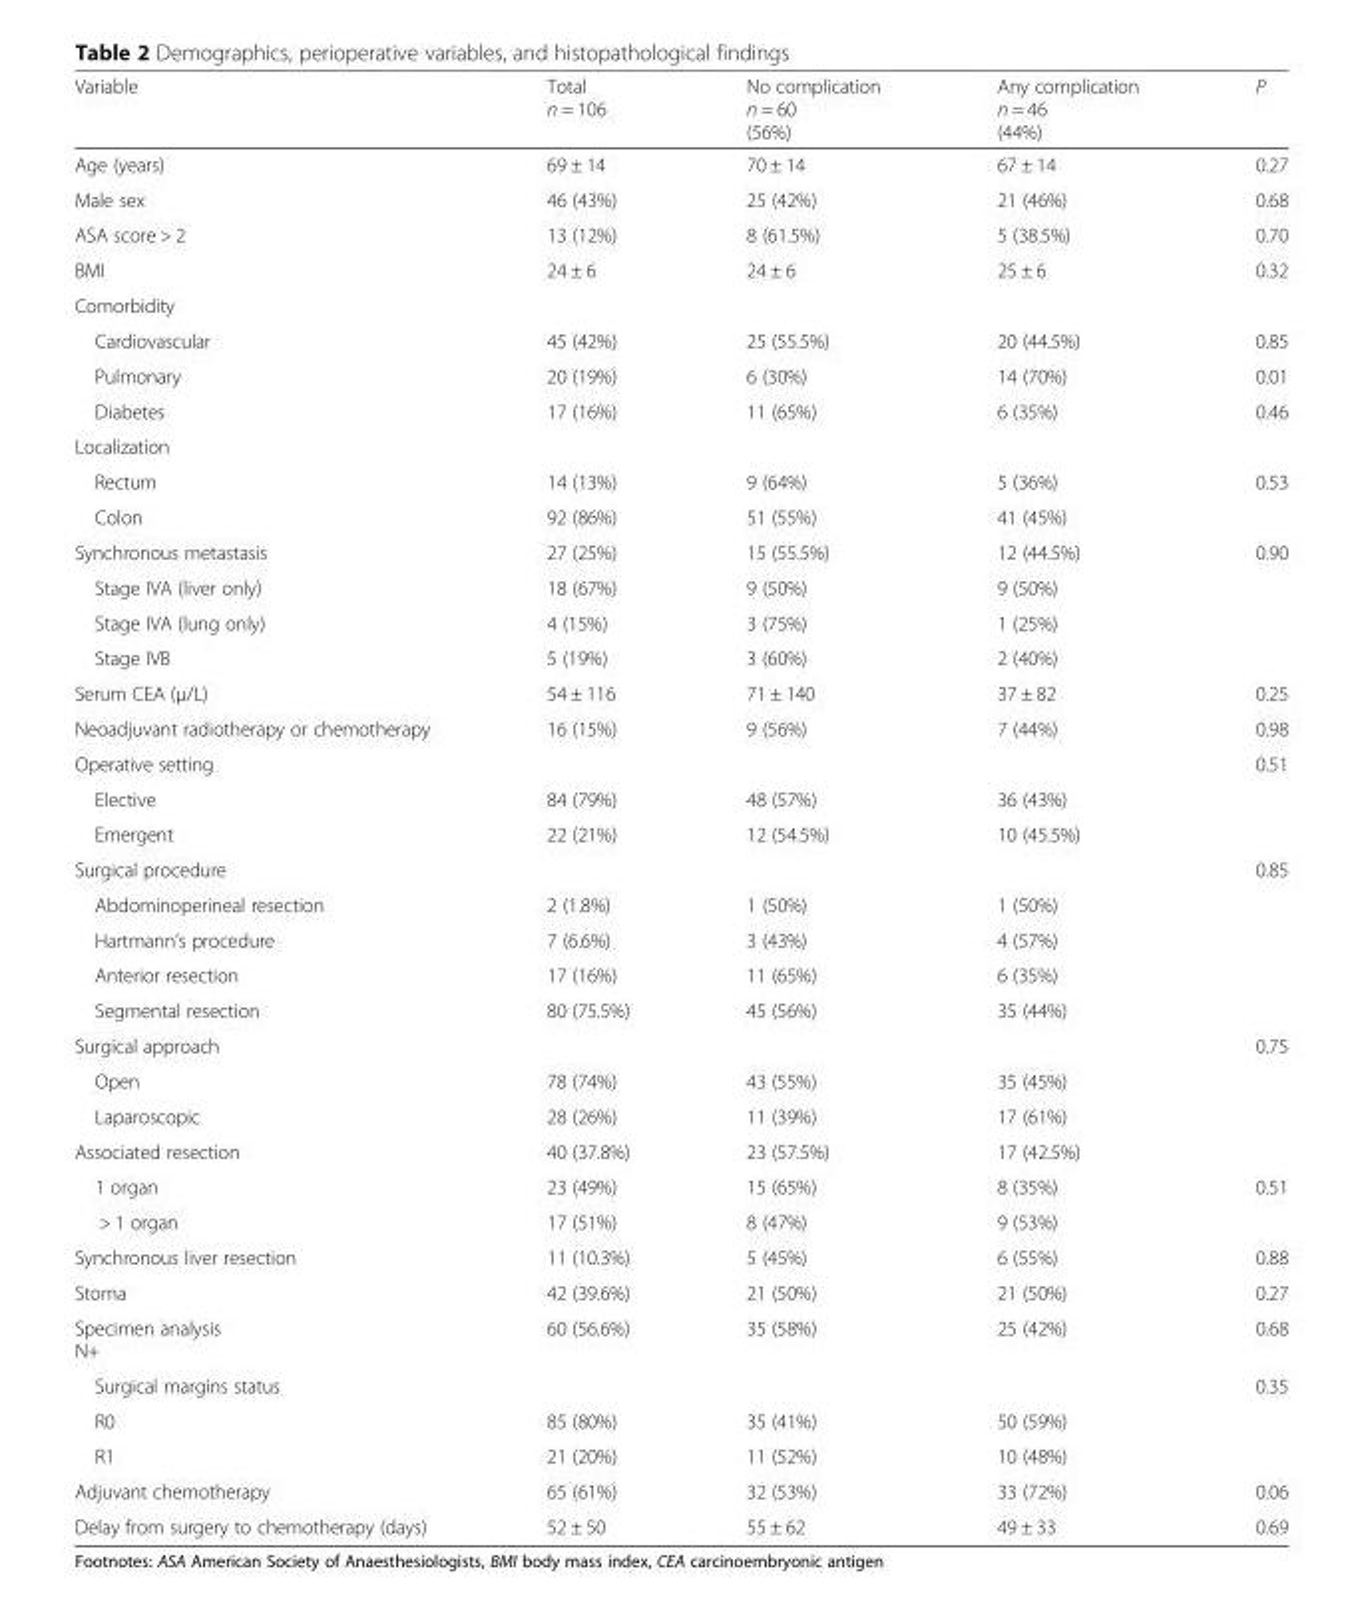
<table><thead><tr><td>Variable</td><td>Total n = 106</td><td>No complication n = 60 (56%)</td><td>Any complication n = 46 (44%)</td><td>P</td></tr></thead><tbody><tr><td>Age (years)</td><td>69 ± 14</td><td>70 ± 14</td><td>67 ± 14</td><td>0.27</td></tr><tr><td>Male sex</td><td>46 (43%)</td><td>25 (42%)</td><td>21 (46%)</td><td>0.68</td></tr><tr><td>ASA score &gt; 2</td><td>13 (12%)</td><td>8 (61.5%)</td><td>5 (38.5%)</td><td>0.70</td></tr><tr><td>BMI</td><td>24 ± 6</td><td>24 ± 6</td><td>25 ± 6</td><td>0.32</td></tr><tr><td colspan="5">Comorbidity</td></tr><tr><td>Cardiovascular</td><td>45 (42%)</td><td>25 (55.5%)</td><td>20 (44.5%)</td><td>0.85</td></tr><tr><td>Pulmonary</td><td>20 (19%)</td><td>6 (30%)</td><td>14 (70%)</td><td>0.01</td></tr><tr><td>Diabetes</td><td>17 (16%)</td><td>11 (65%)</td><td>6 (35%)</td><td>0.46</td></tr><tr><td colspan="5">Localization</td></tr><tr><td>Rectum</td><td>14 (13%)</td><td>9 (64%)</td><td>5 (36%)</td><td>0.53</td></tr><tr><td>Colon</td><td>92 (86%)</td><td>51 (55%)</td><td>41 (45%)</td><td></td></tr><tr><td>Synchronous metastasis</td><td>27 (25%)</td><td>15 (55.5%)</td><td>12 (44.5%)</td><td>0.90</td></tr><tr><td>Stage IVA (liver only)</td><td>18 (67%)</td><td>9 (50%)</td><td>9 (50%)</td><td></td></tr><tr><td>Stage IVA (lung only)</td><td>4 (15%)</td><td>3 (75%)</td><td>1 (25%)</td><td></td></tr><tr><td>Stage IVB</td><td>5 (19%)</td><td>3 (60%)</td><td>2 (40%)</td><td></td></tr><tr><td>Serum CEA (μ/L)</td><td>54 ± 116</td><td>71 ± 140</td><td>37 ± 82</td><td>0.25</td></tr><tr><td>Neoadjuvant radiotherapy or chemotherapy</td><td>16 (15%)</td><td>9 (56%)</td><td>7 (44%)</td><td>0.98</td></tr><tr><td>Operative setting</td><td></td><td></td><td></td><td>0.51</td></tr><tr><td>Elective</td><td>84 (79%)</td><td>48 (57%)</td><td>36 (43%)</td><td></td></tr><tr><td>Emergent</td><td>22 (21%)</td><td>12 (54.5%)</td><td>10 (45.5%)</td><td></td></tr><tr><td>Surgical procedure</td><td></td><td></td><td></td><td>0.85</td></tr><tr><td>Abdominoperineal resection</td><td>2 (1.8%)</td><td>1 (50%)</td><td>1 (50%)</td><td></td></tr><tr><td>Hartmann’s procedure</td><td>7 (6.6%)</td><td>3 (43%)</td><td>4 (57%)</td><td></td></tr><tr><td>Anterior resection</td><td>17 (16%)</td><td>11 (65%)</td><td>6 (35%)</td><td></td></tr><tr><td>Segmental resection</td><td>80 (75.5%)</td><td>45 (56%)</td><td>35 (44%)</td><td></td></tr><tr><td>Surgical approach</td><td></td><td></td><td></td><td>0.75</td></tr><tr><td>Open</td><td>78 (74%)</td><td>43 (55%)</td><td>35 (45%)</td><td></td></tr><tr><td>Laparoscopic</td><td>28 (26%)</td><td>11 (39%)</td><td>17 (61%)</td><td></td></tr><tr><td>Associated resection</td><td>40 (37.8%)</td><td>23 (57.5%)</td><td>17 (42.5%)</td><td></td></tr><tr><td>1 organ</td><td>23 (49%)</td><td>15 (65%)</td><td>8 (35%)</td><td>0.51</td></tr><tr><td>&gt; 1 organ</td><td>17 (51%)</td><td>8 (47%)</td><td>9 (53%)</td><td></td></tr><tr><td>Synchronous liver resection</td><td>11 (10.3%)</td><td>5 (45%)</td><td>6 (55%)</td><td>0.88</td></tr><tr><td>Stoma</td><td>42 (39.6%)</td><td>21 (50%)</td><td>21 (50%)</td><td>0.27</td></tr><tr><td>Specimen analysis N+</td><td>60 (56.6%)</td><td>35 (58%)</td><td>25 (42%)</td><td>0.68</td></tr><tr><td>Surgical margins status</td><td></td><td></td><td></td><td>0.35</td></tr><tr><td>R0</td><td>85 (80%)</td><td>35 (41%)</td><td>50 (59%)</td><td></td></tr><tr><td>R1</td><td>21 (20%)</td><td>11 (52%)</td><td>10 (48%)</td><td></td></tr><tr><td>Adjuvant chemotherapy</td><td>65 (61%)</td><td>32 (53%)</td><td>33 (72%)</td><td>0.06</td></tr><tr><td>Delay from surgery to chemotherapy (days)</td><td>52 ± 50</td><td>55 ± 62</td><td>49 ± 33</td><td>0.69</td></tr></tbody></table>